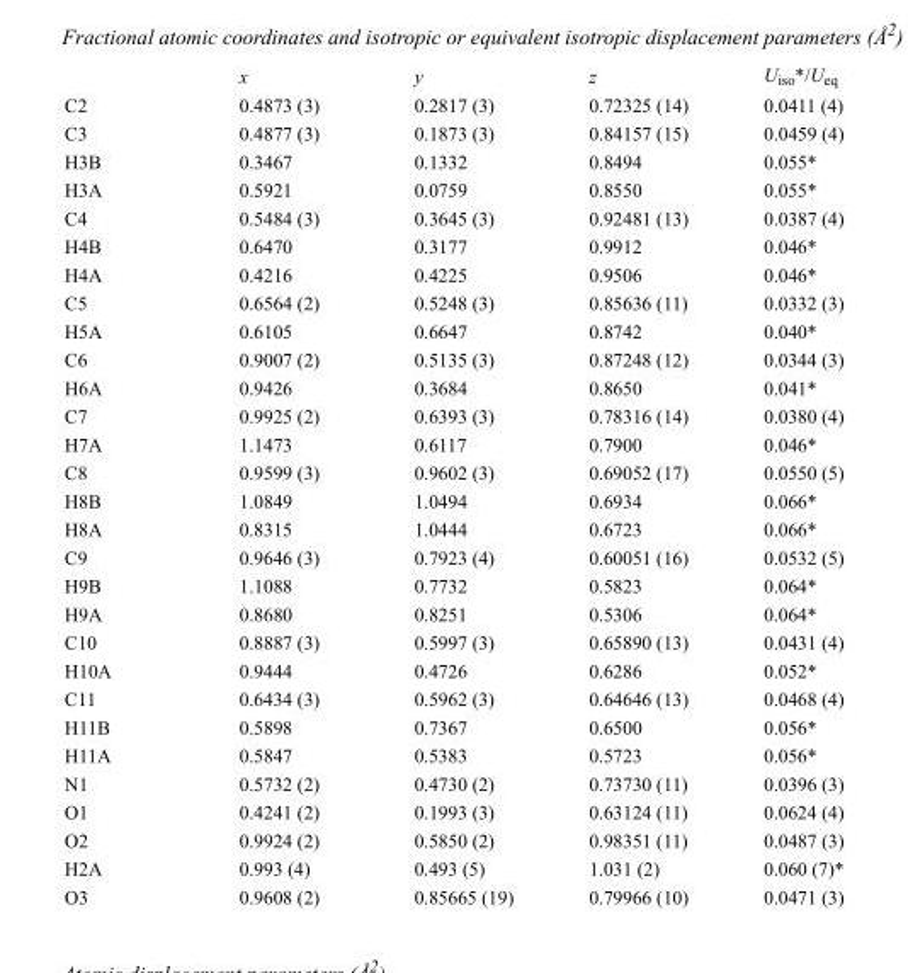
<table><thead><tr><td></td><td>x</td><td>y</td><td>z</td><td>U<sub>iso</sub>*/U<sub>eq</sub></td></tr></thead><tbody><tr><td>C2</td><td>0.4873 (3)</td><td>0.2817 (3)</td><td>0.72325 (14)</td><td>0.0411 (4)</td></tr><tr><td>C3</td><td>0.4877 (3)</td><td>0.1873 (3)</td><td>0.84157 (15)</td><td>0.0459 (4)</td></tr><tr><td>H3B</td><td>0.3467</td><td>0.1332</td><td>0.8494</td><td>0.055*</td></tr><tr><td>H3A</td><td>0.5921</td><td>0.0759</td><td>0.8550</td><td>0.055*</td></tr><tr><td>C4</td><td>0.5484 (3)</td><td>0.3645 (3)</td><td>0.92481 (13)</td><td>0.0387 (4)</td></tr><tr><td>H4B</td><td>0.6470</td><td>0.3177</td><td>0.9912</td><td>0.046*</td></tr><tr><td>H4A</td><td>0.4216</td><td>0.4225</td><td>0.9506</td><td>0.046*</td></tr><tr><td>C5</td><td>0.6564 (2)</td><td>0.5248 (3)</td><td>0.85636 (11)</td><td>0.0332 (3)</td></tr><tr><td>H5A</td><td>0.6105</td><td>0.6647</td><td>0.8742</td><td>0.040*</td></tr><tr><td>C6</td><td>0.9007 (2)</td><td>0.5135 (3)</td><td>0.87248 (12)</td><td>0.0344 (3)</td></tr><tr><td>H6A</td><td>0.9426</td><td>0.3684</td><td>0.8650</td><td>0.041*</td></tr><tr><td>C7</td><td>0.9925 (2)</td><td>0.6393 (3)</td><td>0.78316 (14)</td><td>0.0380 (4)</td></tr><tr><td>H7A</td><td>1.1473</td><td>0.6117</td><td>0.7900</td><td>0.046*</td></tr><tr><td>C8</td><td>0.9599 (3)</td><td>0.9602 (3)</td><td>0.69052 (17)</td><td>0.0550 (5)</td></tr><tr><td>H8B</td><td>1.0849</td><td>1.0494</td><td>0.6934</td><td>0.066*</td></tr><tr><td>H8A</td><td>0.8315</td><td>1.0444</td><td>0.6723</td><td>0.066*</td></tr><tr><td>C9</td><td>0.9646 (3)</td><td>0.7923 (4)</td><td>0.60051 (16)</td><td>0.0532 (5)</td></tr><tr><td>H9B</td><td>1.1088</td><td>0.7732</td><td>0.5823</td><td>0.064*</td></tr><tr><td>H9A</td><td>0.8680</td><td>0.8251</td><td>0.5306</td><td>0.064*</td></tr><tr><td>C10</td><td>0.8887 (3)</td><td>0.5997 (3)</td><td>0.65890 (13)</td><td>0.0431 (4)</td></tr><tr><td>H10A</td><td>0.9444</td><td>0.4726</td><td>0.6286</td><td>0.052*</td></tr><tr><td>C11</td><td>0.6434 (3)</td><td>0.5962 (3)</td><td>0.64646 (13)</td><td>0.0468 (4)</td></tr><tr><td>H11B</td><td>0.5898</td><td>0.7367</td><td>0.6500</td><td>0.056*</td></tr><tr><td>H11A</td><td>0.5847</td><td>0.5383</td><td>0.5723</td><td>0.056*</td></tr><tr><td>N1</td><td>0.5732 (2)</td><td>0.4730 (2)</td><td>0.73730 (11)</td><td>0.0396 (3)</td></tr><tr><td>O1</td><td>0.4241 (2)</td><td>0.1993 (3)</td><td>0.63124 (11)</td><td>0.0624 (4)</td></tr><tr><td>O2</td><td>0.9924 (2)</td><td>0.5850 (2)</td><td>0.98351 (11)</td><td>0.0487 (3)</td></tr><tr><td>H2A</td><td>0.993 (4)</td><td>0.493 (5)</td><td>1.031 (2)</td><td>0.060 (7)*</td></tr><tr><td>O3</td><td>0.9608 (2)</td><td>0.85665 (19)</td><td>0.79966 (10)</td><td>0.0471 (3)</td></tr></tbody></table>